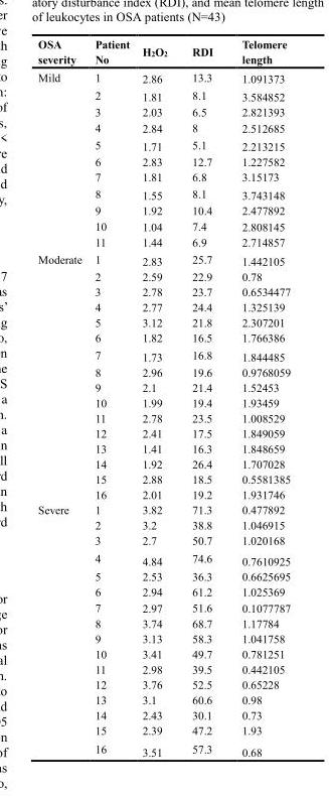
<table><thead><tr><td>OSA severity</td><td>Patient No</td><td>H<sub>2</sub>O<sub>2</sub></td><td>RDI</td><td>Telomere length</td></tr></thead><tbody><tr><td rowspan="11">Mild</td><td>1</td><td>2.86</td><td>13.3</td><td>1.091373</td></tr><tr><td>2</td><td>1.81</td><td>8.1</td><td>3.584852</td></tr><tr><td>3</td><td>2.03</td><td>6.5</td><td>2.821393</td></tr><tr><td>4</td><td>2.84</td><td>8</td><td>2.512685</td></tr><tr><td>5</td><td>1.71</td><td>5.1</td><td>2.213215</td></tr><tr><td>6</td><td>2.83</td><td>12.7</td><td>1.227582</td></tr><tr><td>7</td><td>1.81</td><td>6.8</td><td>3.15173</td></tr><tr><td>8</td><td>1.55</td><td>8.1</td><td>3.743148</td></tr><tr><td>9</td><td>1.92</td><td>10.4</td><td>2.477892</td></tr><tr><td>10</td><td>1.04</td><td>7.4</td><td>2.808145</td></tr><tr><td>11</td><td>1.44</td><td>6.9</td><td>2.714857</td></tr><tr><td rowspan="16">Moderate</td><td>1</td><td>2.83</td><td>25.7</td><td>1.442105</td></tr><tr><td>2</td><td>2.59</td><td>22.9</td><td>0.78</td></tr><tr><td>3</td><td>2.78</td><td>23.7</td><td>0.6534477</td></tr><tr><td>4</td><td>2.77</td><td>24.4</td><td>1.325139</td></tr><tr><td>5</td><td>3.12</td><td>21.8</td><td>2.307201</td></tr><tr><td>6</td><td>1.82</td><td>16.5</td><td>1.766386</td></tr><tr><td>7</td><td>1.73</td><td>16.8</td><td>1.844485</td></tr><tr><td>8</td><td>2.96</td><td>19.6</td><td>0.9768059</td></tr><tr><td>9</td><td>2.1</td><td>21.4</td><td>1.52453</td></tr><tr><td>10</td><td>1.99</td><td>19.4</td><td>1.93459</td></tr><tr><td>11</td><td>2.78</td><td>23.5</td><td>1.008529</td></tr><tr><td>12</td><td>2.41</td><td>17.5</td><td>1.849059</td></tr><tr><td>13</td><td>1.41</td><td>16.3</td><td>1.848659</td></tr><tr><td>14</td><td>1.92</td><td>26.4</td><td>1.707028</td></tr><tr><td>15</td><td>2.88</td><td>18.5</td><td>0.5581385</td></tr><tr><td>16</td><td>2.01</td><td>19.2</td><td>1.931746</td></tr><tr><td rowspan="16">Severe</td><td>1</td><td>3.82</td><td>71.3</td><td>0.477892</td></tr><tr><td>2</td><td>3.2</td><td>38.8</td><td>1.046915</td></tr><tr><td>3</td><td>2.7</td><td>50.7</td><td>1.020168</td></tr><tr><td>4</td><td>4.84</td><td>74.6</td><td>0.7610925</td></tr><tr><td>5</td><td>2.53</td><td>36.3</td><td>0.6625695</td></tr><tr><td>6</td><td>2.94</td><td>61.2</td><td>1.025369</td></tr><tr><td>7</td><td>2.97</td><td>51.6</td><td>0.1077787</td></tr><tr><td>8</td><td>3.74</td><td>68.7</td><td>1.17784</td></tr><tr><td>9</td><td>3.13</td><td>58.3</td><td>1.041758</td></tr><tr><td>10</td><td>3.41</td><td>49.7</td><td>0.781251</td></tr><tr><td>11</td><td>2.98</td><td>39.5</td><td>0.442105</td></tr><tr><td>12</td><td>3.76</td><td>52.5</td><td>0.65228</td></tr><tr><td>13</td><td>3.1</td><td>60.6</td><td>0.98</td></tr><tr><td>14</td><td>2.43</td><td>30.1</td><td>0.73</td></tr><tr><td>15</td><td>2.39</td><td>47.2</td><td>1.93</td></tr><tr><td>16</td><td>3.51</td><td>57.3</td><td>0.68</td></tr></tbody></table>